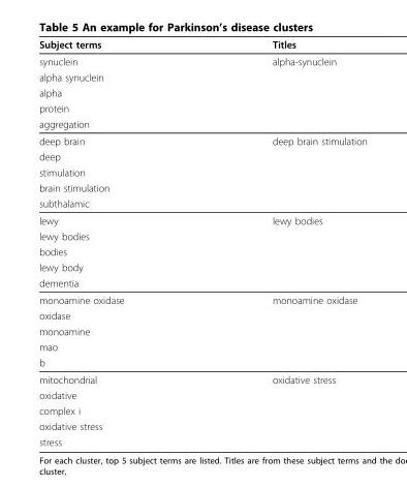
<table><thead><tr><td>Subject terms</td><td>Titles</td></tr></thead><tbody><tr><td>synuclein</td><td>alpha-synuclein</td></tr><tr><td colspan="2">alpha synuclein</td></tr><tr><td colspan="2">alpha</td></tr><tr><td colspan="2">protein</td></tr><tr><td colspan="2">aggregation</td></tr><tr><td>deep brain</td><td>deep brain stimulation</td></tr><tr><td colspan="2">deep</td></tr><tr><td colspan="2">stimulation</td></tr><tr><td colspan="2">brain stimulation</td></tr><tr><td colspan="2">subthalamic</td></tr><tr><td>lewy</td><td>lewy bodies</td></tr><tr><td colspan="2">lewy bodies</td></tr><tr><td colspan="2">bodies</td></tr><tr><td colspan="2">lewy body</td></tr><tr><td colspan="2">dementia</td></tr><tr><td>monoamine oxidase</td><td>monoamine oxidase</td></tr><tr><td colspan="2">oxidase</td></tr><tr><td colspan="2">monoamine</td></tr><tr><td colspan="2">mao</td></tr><tr><td colspan="2">b</td></tr><tr><td>mitochondrial</td><td>oxidative stress</td></tr><tr><td colspan="2">oxidative</td></tr><tr><td colspan="2">complex i</td></tr><tr><td colspan="2">oxidative stress</td></tr><tr><td>stress</td><td></td></tr></tbody></table>